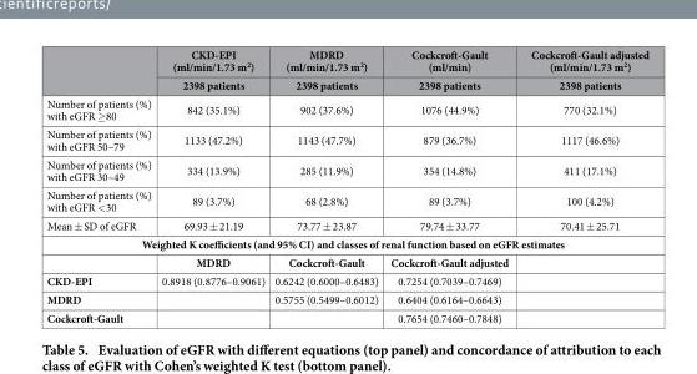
<table><thead><tr><td rowspan="2"></td><td rowspan="2">CKD-EPI (ml/min/1.73 m<sup>2</sup>) 2398 patients</td><td rowspan="2">MDRD (ml/min/1.73 m<sup>2</sup>) 2398 patients</td><td rowspan="2">Cockcroft-Gault (ml/min) 2398 patients</td><td rowspan="2">Cockcroft-Gault adjusted (ml/min/1.73 m<sup>2</sup>) 2398 patients</td></tr><tr></tr></thead><tbody><tr><td>Number of patients (%) with eGFR ≥ 80</td><td>842 (35.1%)</td><td>902 (37.6%)</td><td>1076 (44.9%)</td><td>770 (32.1%)</td></tr><tr><td>Number of patients (%) with eGFR 50–79</td><td>1133 (47.2%)</td><td>1143 (47.7%)</td><td>879 (36.7%)</td><td>1117 (46.6%)</td></tr><tr><td>Number of patients (%) with eGFR 30–49</td><td>334 (13.9%)</td><td>285 (11.9%)</td><td>354 (14.8%)</td><td>411 (17.1%)</td></tr><tr><td>Number of patients (%) with eGFR &lt; 30</td><td>89 (3.7%)</td><td>68 (2.8%)</td><td>89 (3.7%)</td><td>100 (4.2%)</td></tr><tr><td>Mean ± SD of eGFR</td><td>69.93 ± 21.19</td><td>73.77 ± 23.87</td><td>79.74 ± 33.77</td><td>70.41 ± 25.71</td></tr><tr><td colspan="5">Weighted K coefficients (and 95% CI) and classes of renal function based on eGFR estimates</td></tr><tr><td></td><td>MDRD</td><td>Cockcroft-Gault</td><td>Cockcroft-Gault adjusted</td><td></td></tr><tr><td>CKD-EPI</td><td>0.8918 (0.8776–0.9061)</td><td>0.6242 (0.6000–0.6483)</td><td>0.7254 (0.7039–0.7469)</td><td></td></tr><tr><td>MDRD</td><td></td><td>0.5755 (0.5499–0.6012)</td><td>0.6404 (0.6164–0.6643)</td><td></td></tr><tr><td>Cockcroft-Gault</td><td></td><td></td><td>0.7654 (0.7460–0.7848)</td><td></td></tr></tbody></table>